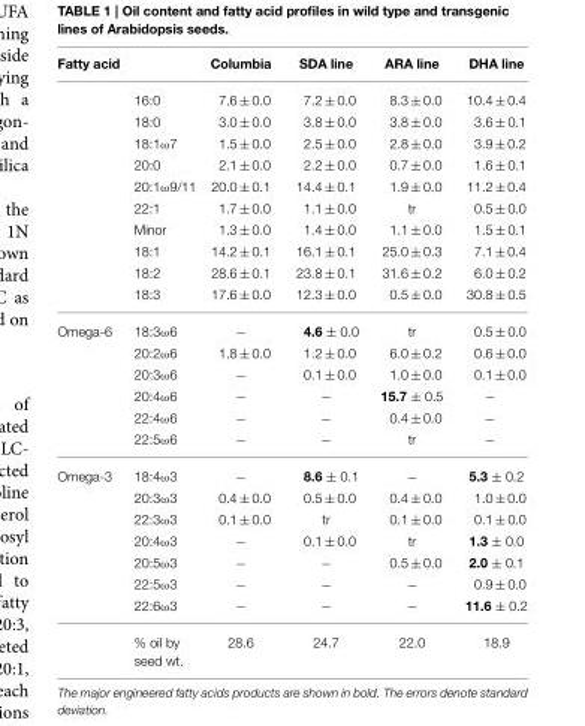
<table><thead><tr><td colspan="2">Fatty acid</td><td rowspan="2">Columbia 7.6 ± 0.0</td><td rowspan="2">SDA line 7.2 ± 0.0</td><td rowspan="2">ARA line 8.3 ± 0.0</td><td rowspan="2">DHA line 10.4 ± 0.4</td></tr><tr><td></td><td>16:0</td></tr></thead><tbody><tr><td></td><td>18:0</td><td>3.0 ± 0.0</td><td>3.8 ± 0.0</td><td>3.8 ± 0.0</td><td>3.6 ± 0.1</td></tr><tr><td></td><td>18:1ω7</td><td>1.5 ± 0.0</td><td>2.5 ± 0.0</td><td>2.8 ± 0.0</td><td>3.9 ± 0.2</td></tr><tr><td></td><td>20:0</td><td>2.1 ± 0.0</td><td>2.2 ± 0.0</td><td>0.7 ± 0.0</td><td>1.6 ± 0.1</td></tr><tr><td></td><td>20:1ω9/11</td><td>20.0 ± 0.1</td><td>14.4 ± 0.1</td><td>1.9 ± 0.0</td><td>11.2 ± 0.4</td></tr><tr><td></td><td>22:1</td><td>1.7 ± 0.0</td><td>1.1 ± 0.0</td><td>tr</td><td>0.5 ± 0.0</td></tr><tr><td></td><td>Minor</td><td>1.3 ± 0.0</td><td>1.4 ± 0.0</td><td>1.1 ± 0.0</td><td>1.5 ± 0.1</td></tr><tr><td></td><td>18:1</td><td>14.2 ± 0.1</td><td>16.1 ± 0.1</td><td>25.0 ± 0.3</td><td>7.1 ± 0.4</td></tr><tr><td></td><td>18:2</td><td>28.6 ± 0.1</td><td>23.8 ± 0.1</td><td>31.6 ± 0.2</td><td>6.0 ± 0.2</td></tr><tr><td></td><td>18:3</td><td>17.6 ± 0.0</td><td>12.3 ± 0.0</td><td>0.5 ± 0.0</td><td>30.8 ± 0.5</td></tr><tr><td rowspan="6">Omega-6</td><td>18:3ω6</td><td>−</td><td>4.6 ± 0.0</td><td>tr</td><td>0.5 ± 0.0</td></tr><tr><td>20:2ω6</td><td>1.8 ± 0.0</td><td>1.2 ± 0.0</td><td>6.0 ± 0.2</td><td>0.6 ± 0.0</td></tr><tr><td>20:3ω6</td><td>−</td><td>0.1 ± 0.0</td><td>1.0 ± 0.0</td><td>0.1 ± 0.0</td></tr><tr><td>20:4ω6</td><td>−</td><td>−</td><td>15.7 ± 0.5</td><td>−</td></tr><tr><td>22:4ω6</td><td>−</td><td>−</td><td>0.4 ± 0.0</td><td>−</td></tr><tr><td>22:5ω6</td><td>−</td><td>−</td><td>tr</td><td>−</td></tr><tr><td rowspan="8">Omega-3</td><td>18:4ω3</td><td>−</td><td>8.6 ± 0.1</td><td>−</td><td>5.3 ± 0.2</td></tr><tr><td>20:3ω3</td><td>0.4 ± 0.0</td><td>0.5 ± 0.0</td><td>0.4 ± 0.0</td><td>1.0 ± 0.0</td></tr><tr><td>22:3ω3</td><td>0.1 ± 0.0</td><td>tr</td><td>0.1 ± 0.0</td><td>0.1 ± 0.0</td></tr><tr><td>20:4ω3</td><td>−</td><td>0.1 ± 0.0</td><td>tr</td><td>1.3 ± 0.0</td></tr><tr><td>20:5ω3</td><td>−</td><td>−</td><td>0.5 ± 0.0</td><td>2.0 ± 0.1</td></tr><tr><td>22:5ω3</td><td>−</td><td>−</td><td>−</td><td>0.9 ± 0.0</td></tr><tr><td>22:6ω3</td><td>−</td><td>−</td><td>−</td><td>11.6 ± 0.2</td></tr><tr><td>% oil by seed wt.</td><td>28.6</td><td>24.7</td><td>22.0</td><td>18.9</td></tr></tbody></table>